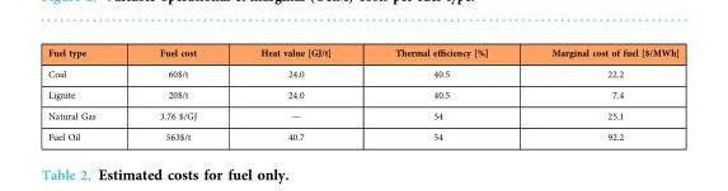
<table><thead><tr><td>Fuel type</td><td>Fuel cost</td><td>Heat value [GJ/t]</td><td>Thermal efficiency [%]</td><td>Marginal cost of fuel [$/MWh]</td></tr></thead><tbody><tr><td>Coal</td><td>60$/t</td><td>24.0</td><td>40.5</td><td>22.2</td></tr><tr><td>Lignite</td><td>20$/t</td><td>24.0</td><td>40.5</td><td>7.4</td></tr><tr><td>Natural Gas</td><td>3.76 $/GJ</td><td>—</td><td>54</td><td>25.1</td></tr><tr><td>Fuel Oil</td><td>563$/t</td><td>40.7</td><td>54</td><td>92.2</td></tr></tbody></table>